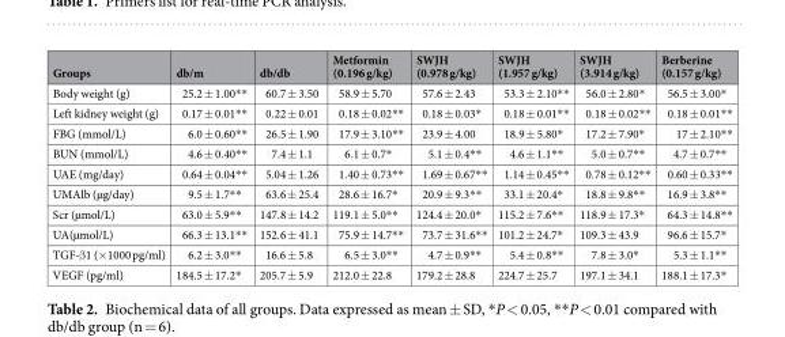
<table><thead><tr><td>Groups</td><td>db/m</td><td>db/db</td><td>Metformin (0.196 g/kg)</td><td>SWJH (0.978 g/kg)</td><td>SWJH (1.957 g/kg)</td><td>SWJH (3.914 g/kg)</td><td>Berberine (0.157 g/kg)</td></tr></thead><tbody><tr><td>Body weight (g)</td><td>25.2 ± 1.00**</td><td>60.7 ± 3.50</td><td>58.9 ± 5.70</td><td>57.6 ± 2.43</td><td>53.3 ± 2.10**</td><td>56.0 ± 2.80*</td><td>56.5 ± 3.00*</td></tr><tr><td>Left kidney weight (g)</td><td>0.17 ± 0.01**</td><td>0.22 ± 0.01</td><td>0.18 ± 0.02**</td><td>0.18 ± 0.03*</td><td>0.18 ± 0.01**</td><td>0.18 ± 0.02**</td><td>0.18 ± 0.01**</td></tr><tr><td>FBG (mmol/L)</td><td>6.0 ± 0.60**</td><td>26.5 ± 1.90</td><td>17.9 ± 3.10**</td><td>23.9 ± 4.00</td><td>18.9 ± 5.80*</td><td>17.2 ± 7.90*</td><td>17 ± 2.10**</td></tr><tr><td>BUN (mmol/L)</td><td>4.6 ± 0.40**</td><td>7.4 ± 1.1</td><td>6.1 ± 0.7*</td><td>5.1 ± 0.4**</td><td>4.6 ± 1.1**</td><td>5.0 ± 0.7**</td><td>4.7 ± 0.7**</td></tr><tr><td>UAE (mg/day)</td><td>0.64 ± 0.04**</td><td>5.04 ± 1.26</td><td>1.40 ± 0.73**</td><td>1.69 ± 0.67**</td><td>1.14 ± 0.45**</td><td>0.78 ± 0.12**</td><td>0.60 ± 0.33**</td></tr><tr><td>UMAlb (µg/day)</td><td>9.5 ± 1.7**</td><td>63.6 ± 25.4</td><td>28.6 ± 16.7*</td><td>20.9 ± 9.3**</td><td>33.1 ± 20.4*</td><td>18.8 ± 9.8**</td><td>16.9 ± 3.8**</td></tr><tr><td>Scr (µmol/L)</td><td>63.0 ± 5.9**</td><td>147.8 ± 14.2</td><td>119.1 ± 5.0**</td><td>124.4 ± 20.0*</td><td>115.2 ± 7.6**</td><td>118.9 ± 17.3*</td><td>64.3 ± 14.8**</td></tr><tr><td>UA(µmol/L)</td><td>66.3 ± 13.1**</td><td>152.6 ± 41.1</td><td>75.9 ± 14.7**</td><td>73.7 ± 31.6**</td><td>101.2 ± 24.7*</td><td>109.3 ± 43.9</td><td>96.6 ± 15.7*</td></tr><tr><td>TGF-β1 (×1000 pg/ml)</td><td>6.2 ± 3.0**</td><td>16.6 ± 5.8</td><td>6.5 ± 3.0**</td><td>4.7 ± 0.9**</td><td>5.4 ± 0.8**</td><td>7.8 ± 3.0*</td><td>5.3 ± 1.1**</td></tr><tr><td>VEGF (pg/ml)</td><td>184.5 ± 17.2*</td><td>205.7 ± 5.9</td><td>212.0 ± 22.8</td><td>179.2 ± 28.8</td><td>224.7 ± 25.7</td><td>197.1 ± 34.1</td><td>188.1 ± 17.3*</td></tr></tbody></table>